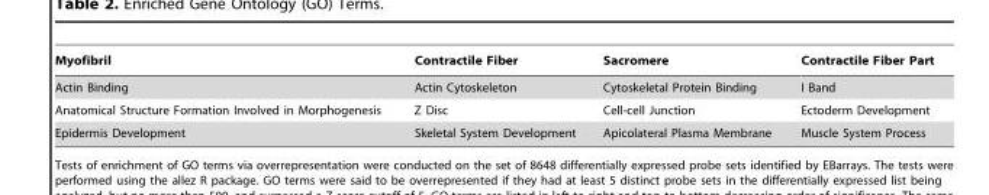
<table><thead><tr><td>Myofibril</td><td>Contractile Fiber</td><td>Sacromere</td><td>Contractile Fiber Part</td></tr></thead><tbody><tr><td>Actin Binding</td><td>Actin Cytoskeleton</td><td>Cytoskeletal Protein Binding</td><td>I Band</td></tr><tr><td>Anatomical Structure Formation Involved in Morphogenesis</td><td>Z Disc</td><td>Cell-cell Junction</td><td>Ectoderm Development</td></tr><tr><td>Epidermis Development</td><td>Skeletal System Development</td><td>Apicolateral Plasma Membrane</td><td>Muscle System Process</td></tr></tbody></table>